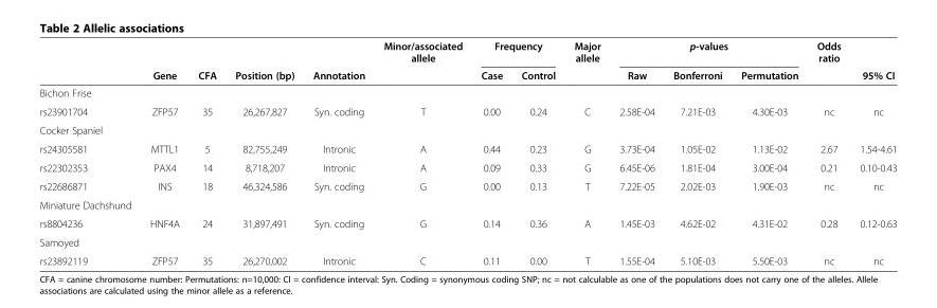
<table><thead><tr><td rowspan="2"></td><td rowspan="2">Gene</td><td rowspan="2">CFA</td><td rowspan="2">Position (bp)</td><td rowspan="2">Annotation</td><td rowspan="2">Minor/associated allele</td><td colspan="2">Frequency</td><td rowspan="2">Major allele</td><td colspan="3">p-values</td><td rowspan="2">Odds ratio</td><td rowspan="2">95% CI</td></tr><tr><td>Case</td><td>Control</td><td>Raw</td><td>Bonferroni</td><td>Permutation</td></tr></thead><tbody><tr><td colspan="14">Bichon Frise</td></tr><tr><td>rs23901704</td><td>ZFP57</td><td>35</td><td>26,267,827</td><td>Syn. coding</td><td>T</td><td>0.00</td><td>0.24</td><td>C</td><td>2.58E-04</td><td>7.21E-03</td><td>4.30E-03</td><td>nc</td><td>nc</td></tr><tr><td colspan="14">Cocker Spaniel</td></tr><tr><td>rs24305581</td><td>MTTL1</td><td>5</td><td>82,755,249</td><td>Intronic</td><td>A</td><td>0.44</td><td>0.23</td><td>G</td><td>3.73E-04</td><td>1.05E-02</td><td>1.13E-02</td><td>2.67</td><td>1.54-4.61</td></tr><tr><td>rs22302353</td><td>PAX4</td><td>14</td><td>8,718,207</td><td>Intronic</td><td>A</td><td>0.09</td><td>0.33</td><td>G</td><td>6.45E-06</td><td>1.81E-04</td><td>3.00E-04</td><td>0.21</td><td>0.10-0.43</td></tr><tr><td>rs22686871</td><td>INS</td><td>18</td><td>46,324,586</td><td>Syn. coding</td><td>G</td><td>0.00</td><td>0.13</td><td>T</td><td>7.22E-05</td><td>2.02E-03</td><td>1.90E-03</td><td>nc</td><td>nc</td></tr><tr><td colspan="14">Miniature Dachshund</td></tr><tr><td>rs8804236</td><td>HNF4A</td><td>24</td><td>31,897,491</td><td>Syn. coding</td><td>G</td><td>0.14</td><td>0.36</td><td>A</td><td>1.45E-03</td><td>4.62E-02</td><td>4.31E-02</td><td>0.28</td><td>0.12-0.63</td></tr><tr><td colspan="14">Samoyed</td></tr><tr><td>rs23892119</td><td>ZFP57</td><td>35</td><td>26,270,002</td><td>Intronic</td><td>C</td><td>0.11</td><td>0.00</td><td>T</td><td>1.55E-04</td><td>5.10E-03</td><td>5.50E-03</td><td>nc</td><td>nc</td></tr></tbody></table>